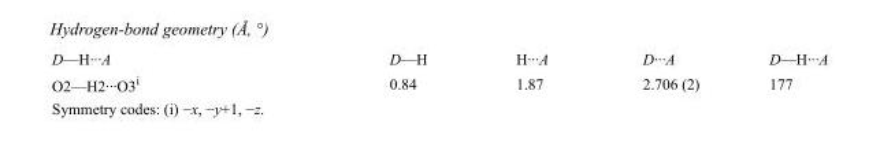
<table><tbody><tr><td>D—H···A</td><td>D—H</td><td>H···A</td><td>D···A</td><td>D—H···A</td></tr><tr><td>O2—H2···O3<sup>i</sup></td><td>0.84</td><td>1.87</td><td>2.706 (2)</td><td>177</td></tr></tbody></table>